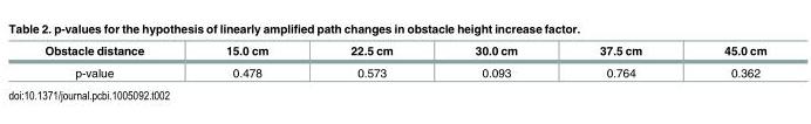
<table><thead><tr><td>Obstacle distance</td><td>15.0 cm</td><td>22.5 cm</td><td>30.0 cm</td><td>37.5 cm</td><td>45.0 cm</td></tr></thead><tbody><tr><td>p-value</td><td>0.478</td><td>0.573</td><td>0.093</td><td>0.764</td><td>0.362</td></tr></tbody></table>